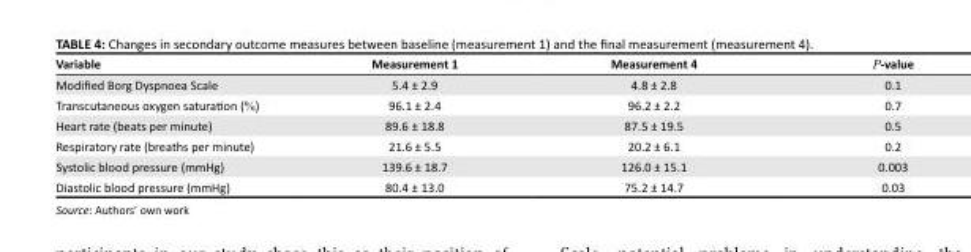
<table><thead><tr><td>Variable</td><td>Measurement 1</td><td>Measurement 4</td><td>P-value</td></tr></thead><tbody><tr><td>Modified Borg Dyspnoea Scale</td><td>5.4 ± 2.9</td><td>4.8 ± 2.8</td><td>0.1</td></tr><tr><td>Transcutaneous oxygen saturation (%)</td><td>96.1 ± 2.4</td><td>96.2 ± 2.2</td><td>0.7</td></tr><tr><td>Heart rate (beats per minute)</td><td>89.6 ± 18.8</td><td>87.5 ± 19.5</td><td>0.5</td></tr><tr><td>Respiratory rate (breaths per minute)</td><td>21.6 ± 5.5</td><td>20.2 ± 6.1</td><td>0.2</td></tr><tr><td>Systolic blood pressure (mmHg)</td><td>139.6 ± 18.7</td><td>126.0 ± 15.1</td><td>0.003</td></tr><tr><td>Diastolic blood pressure (mmHg)</td><td>80.4 ± 13.0</td><td>75.2 ± 14.7</td><td>0.03</td></tr></tbody></table>